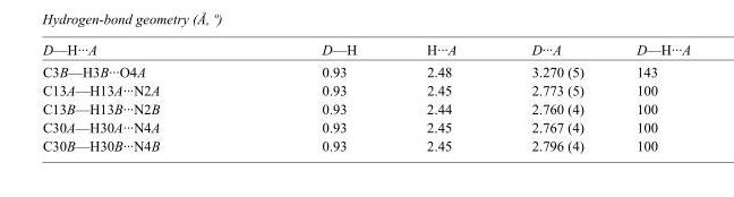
<table><tbody><tr><td>D—H···A</td><td>D—H</td><td>H···A</td><td>D···A</td><td>D—H···A</td></tr><tr><td>C3B—H3B···O4A</td><td>0.93</td><td>2.48</td><td>3.270 (5)</td><td>143</td></tr><tr><td>C13A—H13A···N2A</td><td>0.93</td><td>2.45</td><td>2.773 (5)</td><td>100</td></tr><tr><td>C13B—H13B···N2B</td><td>0.93</td><td>2.44</td><td>2.760 (4)</td><td>100</td></tr><tr><td>C30A—H30A···N4A</td><td>0.93</td><td>2.45</td><td>2.767 (4)</td><td>100</td></tr><tr><td>C30B—H30B···N4B</td><td>0.93</td><td>2.45</td><td>2.796 (4)</td><td>100</td></tr></tbody></table>